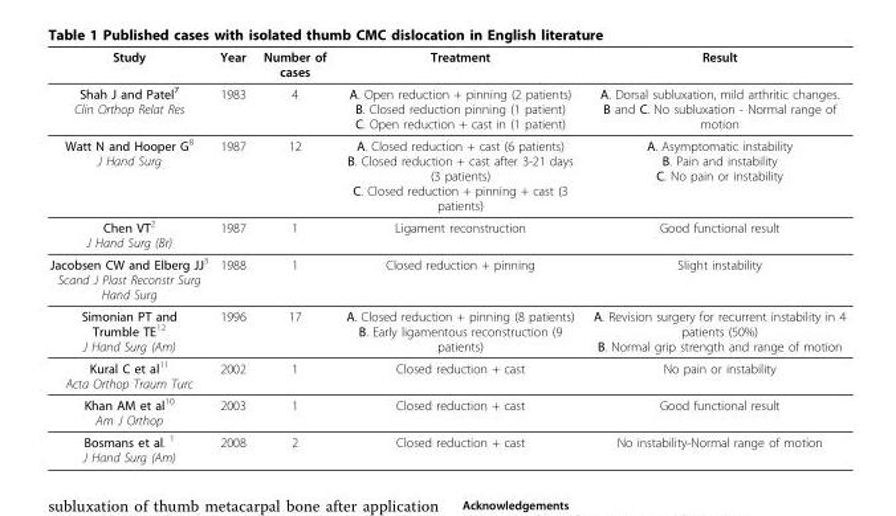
<table><thead><tr><td>Study</td><td>Year</td><td>Number of cases</td><td>Treatment</td><td>Result</td></tr></thead><tbody><tr><td>Shah J and Patel<sup>7</sup> Clin Orthop Relat Res</td><td>1983</td><td>4</td><td>A. Open reduction + pinning (2 patients) B. Closed reduction pinning (1 patient) C. Open reduction + cast in (1 patient)</td><td>A. Dorsal subluxation, mild arthritic changes. B and C. No subluxation - Normal range of motion</td></tr><tr><td>Watt N and Hooper G<sup>8</sup> J Hand Surg</td><td>1987</td><td>12</td><td>A. Closed reduction + cast (6 patients) B. Closed reduction + cast after 3-21 days (3 patients) C. Closed reduction + pinning + cast (3 patients)</td><td>A. Asymptomatic instability B. Pain and instability C. No pain or instability</td></tr><tr><td>Chen VT<sup>2</sup> J Hand Surg (Br)</td><td>1987</td><td>1</td><td>Ligament reconstruction</td><td>Good functional result</td></tr><tr><td>Jacobsen CW and Elberg JJ<sup>3</sup> Scand J Plast Reconstr Surg Hand Surg</td><td>1988</td><td>1</td><td>Closed reduction + pinning</td><td>Slight instability</td></tr><tr><td>Simonian PT and Trumble TE<sup>12</sup> J Hand Surg (Am)</td><td>1996</td><td>17</td><td>A. Closed reduction + pinning (8 patients) B. Early ligamentous reconstruction (9 patients)</td><td>A. Revision surgery for recurrent instability in 4 patients (50%) B. Normal grip strength and range of motion</td></tr><tr><td>Kural C et al<sup>11</sup> Acta Orthop Traum Turc</td><td>2002</td><td>1</td><td>Closed reduction + cast</td><td>No pain or instability</td></tr><tr><td>Khan AM et al<sup>10</sup> Am J Orthop</td><td>2003</td><td>1</td><td>Closed reduction + cast</td><td>Good functional result</td></tr><tr><td>Bosmans et al. <sup>1</sup> J Hand Surg (Am)</td><td>2008</td><td>2</td><td>Closed reduction + cast</td><td>No instability-Normal range of motion</td></tr></tbody></table>